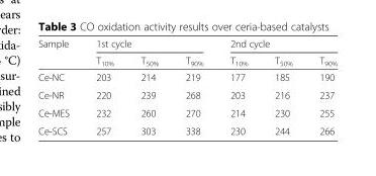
<table><thead><tr><td rowspan="2">Sample</td><td colspan="3">1st cycle</td><td colspan="3">2nd cycle</td></tr><tr><td>T<sub>10%</sub></td><td>T<sub>50%</sub></td><td>T<sub>90%</sub></td><td>T<sub>10%</sub></td><td>T<sub>50%</sub></td><td>T<sub>90%</sub></td></tr></thead><tbody><tr><td>Ce-NC</td><td>203</td><td>214</td><td>219</td><td>177</td><td>185</td><td>190</td></tr><tr><td>Ce-NR</td><td>220</td><td>239</td><td>268</td><td>203</td><td>216</td><td>237</td></tr><tr><td>Ce-MES</td><td>232</td><td>260</td><td>270</td><td>214</td><td>230</td><td>255</td></tr><tr><td>Ce-SCS</td><td>257</td><td>303</td><td>338</td><td>230</td><td>244</td><td>266</td></tr></tbody></table>